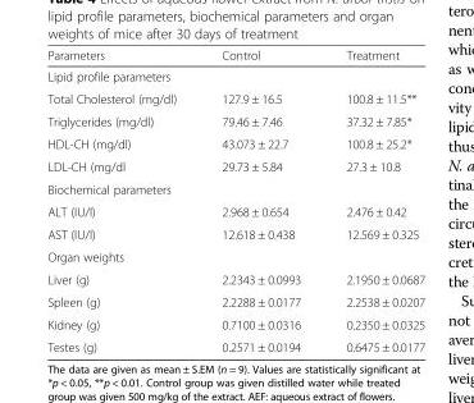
<table><thead><tr><td>Parameters</td><td>Control</td><td>Treatment</td></tr></thead><tbody><tr><td colspan="3">Lipid profile parameters</td></tr><tr><td>Total Cholesterol (mg/dl)</td><td>127.9 ± 16.5</td><td>100.8 ± 11.5**</td></tr><tr><td>Triglycerides (mg/dl)</td><td>79.46 ± 7.46</td><td>37.32 ± 7.85*</td></tr><tr><td>HDL-CH (mg/dl)</td><td>43.073 ± 22.7</td><td>100.8 ± 25.2*</td></tr><tr><td>LDL-CH (mg/dl</td><td>29.73 ± 5.84</td><td>27.3 ± 10.8</td></tr><tr><td colspan="3">Biochemical parameters</td></tr><tr><td>ALT (IU/l)</td><td>2.968 ± 0.654</td><td>2.476 ± 0.42</td></tr><tr><td>AST (IU/l)</td><td>12.618 ± 0.438</td><td>12.569 ± 0.325</td></tr><tr><td colspan="3">Organ weights</td></tr><tr><td>Liver (g)</td><td>2.2343 ± 0.0993</td><td>2.1950 ± 0.0687</td></tr><tr><td>Spleen (g)</td><td>2.2288 ± 0.0177</td><td>2.2538 ± 0.0207</td></tr><tr><td>Kidney (g)</td><td>0.7100 ± 0.0316</td><td>0.2350 ± 0.0325</td></tr><tr><td>Testes (g)</td><td>0.2571 ± 0.0194</td><td>0.6475 ± 0.0177</td></tr></tbody></table>